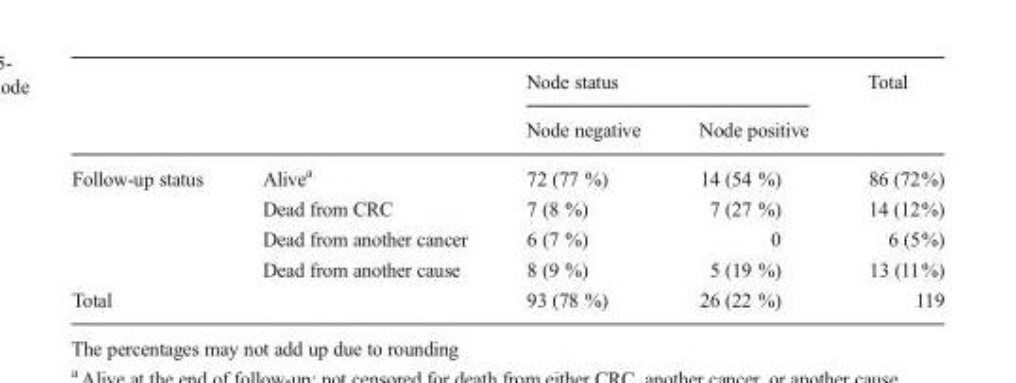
<table><thead><tr><td rowspan="2"></td><td rowspan="2"></td><td colspan="2">Node status</td><td rowspan="2">Total</td></tr><tr><td>Node negative</td><td>Node positive</td></tr></thead><tbody><tr><td rowspan="4">Follow-up status</td><td>Alive<sup>a</sup></td><td>72 (77 %)</td><td>14 (54 %)</td><td>86 (72%)</td></tr><tr><td>Dead from CRC</td><td>7 (8 %)</td><td>7 (27 %)</td><td>14 (12%)</td></tr><tr><td>Dead from another cancer</td><td>6 (7 %)</td><td>0</td><td>6 (5%)</td></tr><tr><td>Dead from another cause</td><td>8 (9 %)</td><td>5 (19 %)</td><td>13 (11%)</td></tr><tr><td colspan="2">Total</td><td>93 (78 %)</td><td>26 (22 %)</td><td>119</td></tr></tbody></table>